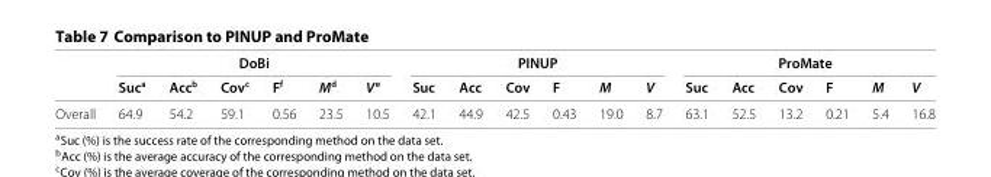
<table><thead><tr><td rowspan="2"></td><td colspan="6">DoBi</td><td colspan="6">PINUP</td><td colspan="6">ProMate</td></tr><tr><td>Suc<sup>a</sup></td><td>Acc<sup>b</sup></td><td>Cov<sup>c</sup></td><td>F<sup>f</sup></td><td>M<sup>d</sup></td><td>V<sup>e</sup></td><td>Suc</td><td>Acc</td><td>Cov</td><td>F</td><td>M</td><td>V</td><td>Suc</td><td>Acc</td><td>Cov</td><td>F</td><td>M</td><td>V</td></tr></thead><tbody><tr><td>Overall</td><td>64.9</td><td>54.2</td><td>59.1</td><td>0.56</td><td>23.5</td><td>10.5</td><td>42.1</td><td>44.9</td><td>42.5</td><td>0.43</td><td>19.0</td><td>8.7</td><td>63.1</td><td>52.5</td><td>13.2</td><td>0.21</td><td>5.4</td><td>16.8</td></tr></tbody></table>